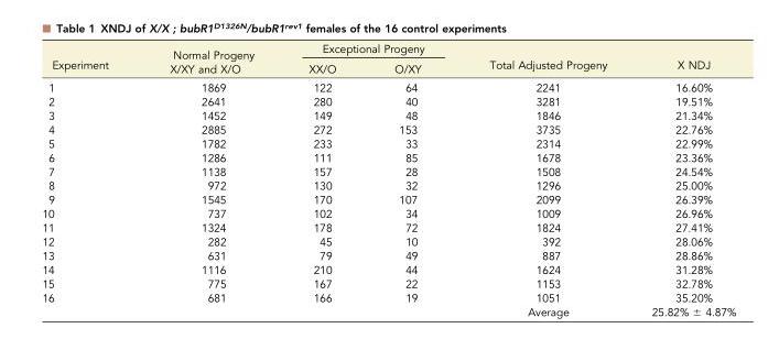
<table><thead><tr><td rowspan="2">Experiment</td><td rowspan="2">Normal Progeny X/XY and X/O</td><td colspan="2">Exceptional Progeny</td><td rowspan="2">Total Adjusted Progeny</td><td rowspan="2">X NDJ</td></tr><tr><td>XX/O</td><td>O/XY</td></tr></thead><tbody><tr><td>1</td><td>1869</td><td>122</td><td>64</td><td>2241</td><td>16.60%</td></tr><tr><td>2</td><td>2641</td><td>280</td><td>40</td><td>3281</td><td>19.51%</td></tr><tr><td>3</td><td>1452</td><td>149</td><td>48</td><td>1846</td><td>21.34%</td></tr><tr><td>4</td><td>2885</td><td>272</td><td>153</td><td>3735</td><td>22.76%</td></tr><tr><td>5</td><td>1782</td><td>233</td><td>33</td><td>2314</td><td>22.99%</td></tr><tr><td>6</td><td>1286</td><td>111</td><td>85</td><td>1678</td><td>23.36%</td></tr><tr><td>7</td><td>1138</td><td>157</td><td>28</td><td>1508</td><td>24.54%</td></tr><tr><td>8</td><td>972</td><td>130</td><td>32</td><td>1296</td><td>25.00%</td></tr><tr><td>9</td><td>1545</td><td>170</td><td>107</td><td>2099</td><td>26.39%</td></tr><tr><td>10</td><td>737</td><td>102</td><td>34</td><td>1009</td><td>26.96%</td></tr><tr><td>11</td><td>1324</td><td>178</td><td>72</td><td>1824</td><td>27.41%</td></tr><tr><td>12</td><td>282</td><td>45</td><td>10</td><td>392</td><td>28.06%</td></tr><tr><td>13</td><td>631</td><td>79</td><td>49</td><td>887</td><td>28.86%</td></tr><tr><td>14</td><td>1116</td><td>210</td><td>44</td><td>1624</td><td>31.28%</td></tr><tr><td>15</td><td>775</td><td>167</td><td>22</td><td>1153</td><td>32.78%</td></tr><tr><td rowspan="2">16</td><td>681</td><td>166</td><td>19</td><td>1051</td><td>35.20%</td></tr><tr><td></td><td></td><td></td><td>Average</td><td>25.82% ± 4.87%</td></tr></tbody></table>